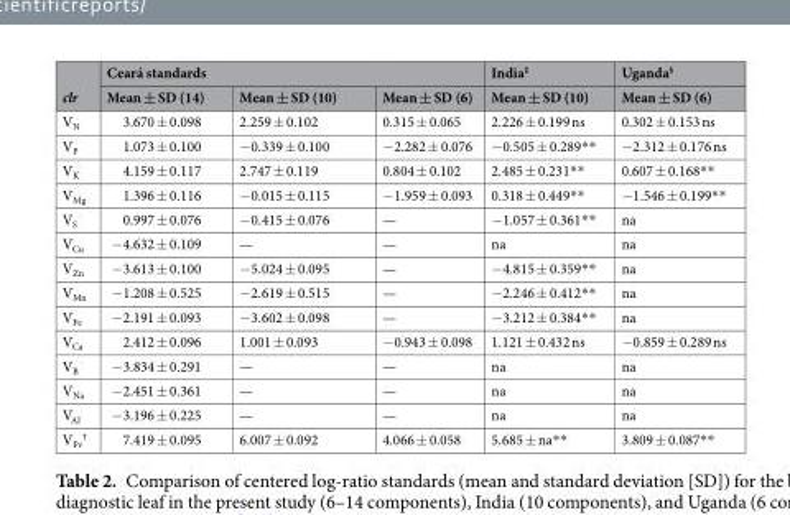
<table><thead><tr><td rowspan="2">clr</td><td colspan="3">Ceará standards</td><td rowspan="2">India<sup>‡</sup> Mean ± SD (10)</td><td rowspan="2">Uganda<sup>§</sup> Mean ± SD (6)</td></tr><tr><td>Mean ± SD (14)</td><td>Mean ± SD (10)</td><td>Mean ± SD (6)</td></tr></thead><tbody><tr><td>V<sub>N</sub></td><td>3.670 ± 0.098</td><td>2.259 ± 0.102</td><td>0.315 ± 0.065</td><td>2.226 ± 0.199 ns</td><td>0.302 ± 0.153 ns</td></tr><tr><td>V<sub>P</sub></td><td>1.073 ± 0.100</td><td>−0.339 ± 0.100</td><td>−2.282 ± 0.076</td><td>−0.505 ± 0.289**</td><td>−2.312 ± 0.176 ns</td></tr><tr><td>V<sub>K</sub></td><td>4.159 ± 0.117</td><td>2.747 ± 0.119</td><td>0.804 ± 0.102</td><td>2.485 ± 0.231**</td><td>0.607 ± 0.168**</td></tr><tr><td>V<sub>Mg</sub></td><td>1.396 ± 0.116</td><td>−0.015 ± 0.115</td><td>−1.959 ± 0.093</td><td>0.318 ± 0.449**</td><td>−1.546 ± 0.199**</td></tr><tr><td>V<sub>S</sub></td><td>0.997 ± 0.076</td><td>−0.415 ± 0.076</td><td>—</td><td>−1.057 ± 0.361**</td><td>na</td></tr><tr><td>V<sub>Cu</sub></td><td>−4.632 ± 0.109</td><td>—</td><td>—</td><td>na</td><td>na</td></tr><tr><td>V<sub>Zn</sub></td><td>−3.613 ± 0.100</td><td>−5.024 ± 0.095</td><td>—</td><td>−4.815 ± 0.359**</td><td>na</td></tr><tr><td>V<sub>Mn</sub></td><td>−1.208 ± 0.525</td><td>−2.619 ± 0.515</td><td>—</td><td>−2.246 ± 0.412**</td><td>na</td></tr><tr><td>V<sub>Fe</sub></td><td>−2.191 ± 0.093</td><td>−3.602 ± 0.098</td><td>—</td><td>−3.212 ± 0.384**</td><td>na</td></tr><tr><td>V<sub>Ca</sub></td><td>2.412 ± 0.096</td><td>1.001 ± 0.093</td><td>−0.943 ± 0.098</td><td>1.121 ± 0.432 ns</td><td>−0.859 ± 0.289 ns</td></tr><tr><td>V<sub>B</sub></td><td>−3.834 ± 0.291</td><td>—</td><td>—</td><td>na</td><td>na</td></tr><tr><td>V<sub>Na</sub></td><td>−2.451 ± 0.361</td><td>—</td><td>—</td><td>na</td><td>na</td></tr><tr><td>V<sub>Al</sub></td><td>−3.196 ± 0.225</td><td>—</td><td>—</td><td>na</td><td>na</td></tr><tr><td>V<sub>Fv</sub> <sup>†</sup></td><td>7.419 ± 0.095</td><td>6.007 ± 0.092</td><td>4.066 ± 0.058</td><td>5.685 ± na**</td><td>3.809 ± 0.087**</td></tr></tbody></table>